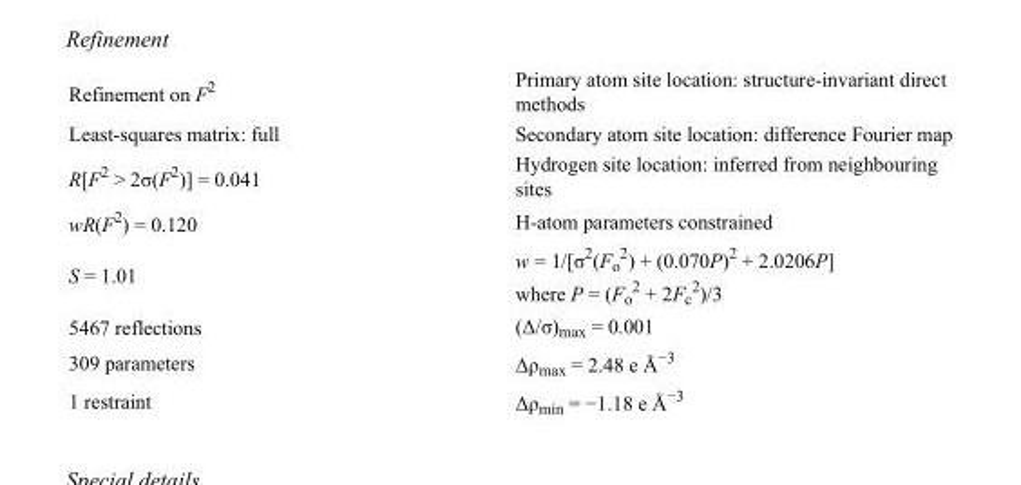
<table><tbody><tr><td>Refinement on F<sup>2</sup></td><td>Primary atom site location: structure-invariant direct methods</td></tr><tr><td>Least-squares matrix: full</td><td>Secondary atom site location: difference Fourier map</td></tr><tr><td>R[F<sup>2</sup> &gt; 2σ(F<sup>2</sup>)] = 0.041</td><td>Hydrogen site location: inferred from neighbouring sites</td></tr><tr><td>wR(F<sup>2</sup>) = 0.120</td><td>H-atom parameters constrained</td></tr><tr><td>S = 1.01</td><td>w = 1/[σ<sup>2</sup>(F<sub>o</sub> <sup>2</sup>) + (0.070P)<sup>2</sup> + 2.0206P] where P = (F<sub>o</sub> <sup>2</sup> + 2F<sub>c</sub> <sup>2</sup>)/3</td></tr><tr><td>5467 reflections</td><td>(Δ/σ)<sub>max</sub> = 0.001</td></tr><tr><td>309 parameters</td><td>Δρ<sub>max</sub> = 2.48 e Å<sup>−3</sup></td></tr><tr><td>1 restraint</td><td>Δρ<sub>min</sub> = −1.18 e Å<sup>−3</sup></td></tr></tbody></table>